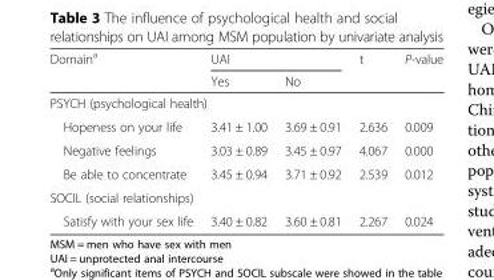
<table><thead><tr><td rowspan="2">Domain<sup>a</sup></td><td colspan="2">UAI</td><td rowspan="2">t</td><td rowspan="2">P-value</td></tr><tr><td>Yes</td><td>No</td></tr></thead><tbody><tr><td colspan="5">PSYCH (psychological health)</td></tr><tr><td>Hopeness on your life</td><td>3.41 ± 1.00</td><td>3.69 ± 0.91</td><td>2.636</td><td>0.009</td></tr><tr><td>Negative feelings</td><td>3.03 ± 0.89</td><td>3.45 ± 0.97</td><td>4.067</td><td>0.000</td></tr><tr><td>Be able to concentrate</td><td>3.45 ± 0.94</td><td>3.71 ± 0.92</td><td>2.539</td><td>0.012</td></tr><tr><td colspan="5">SOCIL (social relationships)</td></tr><tr><td>Satisfy with your sex life</td><td>3.40 ± 0.82</td><td>3.60 ± 0.81</td><td>2.267</td><td>0.024</td></tr></tbody></table>